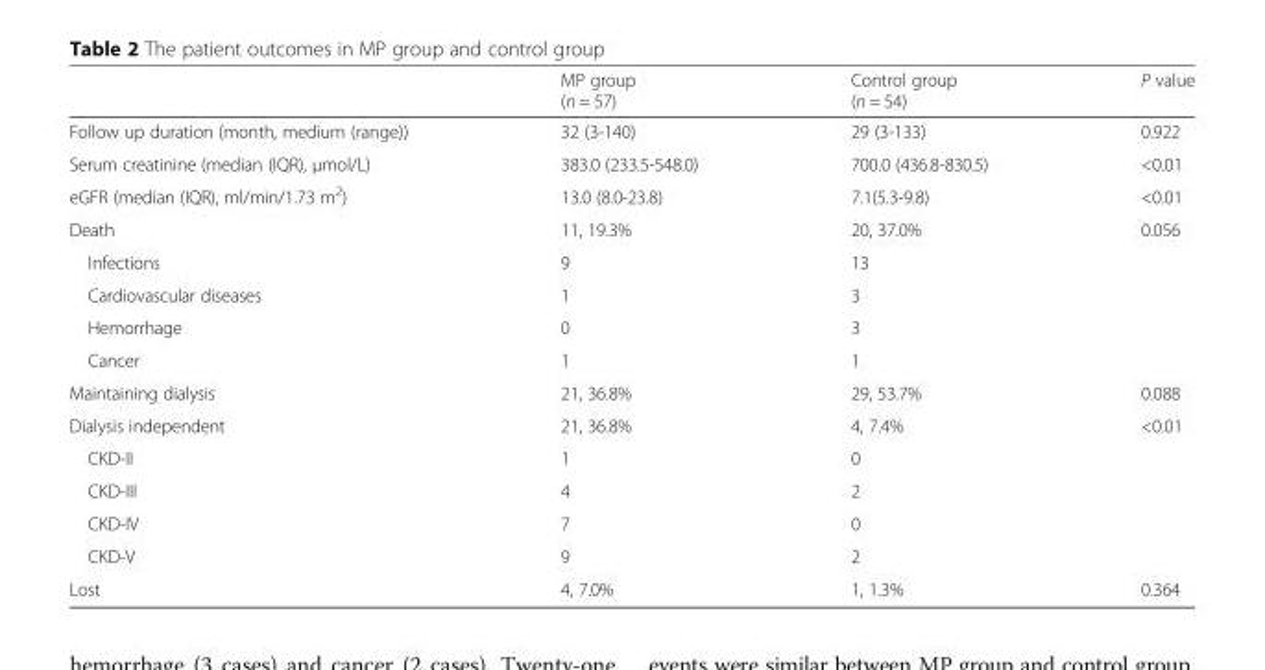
<table><thead><tr><td></td><td>MP group (n = 57)</td><td>Control group (n = 54)</td><td>P value</td></tr></thead><tbody><tr><td>Follow up duration (month, medium (range))</td><td>32 (3-140)</td><td>29 (3-133)</td><td>0.922</td></tr><tr><td>Serum creatinine (median (IQR), μmol/L)</td><td>383.0 (233.5-548.0)</td><td>700.0 (436.8-830.5)</td><td>&lt;0.01</td></tr><tr><td>eGFR (median (IQR), ml/min/1.73 m<sup>2</sup>)</td><td>13.0 (8.0-23.8)</td><td>7.1(5.3-9.8)</td><td>&lt;0.01</td></tr><tr><td>Death</td><td>11, 19.3%</td><td>20, 37.0%</td><td>0.056</td></tr><tr><td>Infections</td><td>9</td><td>13</td><td></td></tr><tr><td>Cardiovascular diseases</td><td>1</td><td>3</td><td></td></tr><tr><td>Hemorrhage</td><td>0</td><td>3</td><td></td></tr><tr><td>Cancer</td><td>1</td><td>1</td><td></td></tr><tr><td>Maintaining dialysis</td><td>21, 36.8%</td><td>29, 53.7%</td><td>0.088</td></tr><tr><td>Dialysis independent</td><td>21, 36.8%</td><td>4, 7.4%</td><td>&lt;0.01</td></tr><tr><td>CKD-II</td><td>1</td><td>0</td><td></td></tr><tr><td>CKD-III</td><td>4</td><td>2</td><td></td></tr><tr><td>CKD-IV</td><td>7</td><td>0</td><td></td></tr><tr><td>CKD-V</td><td>9</td><td>2</td><td></td></tr><tr><td>Lost</td><td>4, 7.0%</td><td>1, 1.3%</td><td>0.364</td></tr></tbody></table>